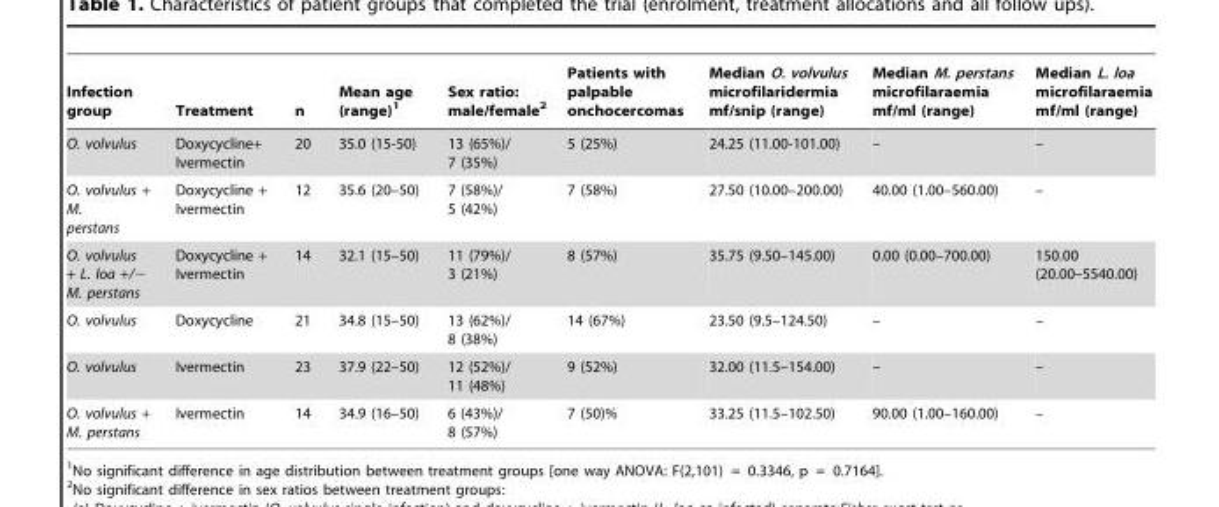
<table><thead><tr><td>Infection group</td><td>Treatment</td><td>n</td><td>Mean age (range)<sup>1</sup></td><td>Sex ratio: male/female<sup>2</sup></td><td>Patients with palpable onchocercomas</td><td>Median O. volvulus microfilaridermia mf/snip (range)</td><td>Median M. perstans microfilaraemia mf/ml (range)</td><td>Median L. loa microfilaraemia mf/ml (range)</td></tr></thead><tbody><tr><td>O. volvulus</td><td>Doxycycline+ Ivermectin</td><td>20</td><td>35.0 (15-50)</td><td>13 (65%)/ 7 (35%)</td><td>5 (25%)</td><td>24.25 (11.00-101.00)</td><td>–</td><td>–</td></tr><tr><td>O. volvulus + M. perstans</td><td>Doxycycline + Ivermectin</td><td>12</td><td>35.6 (20–50)</td><td>7 (58%)/ 5 (42%)</td><td>7 (58%)</td><td>27.50 (10.00–200.00)</td><td>40.00 (1.00–560.00)</td><td>–</td></tr><tr><td>O. volvulus + L. loa +/− M. perstans</td><td>Doxycycline + Ivermectin</td><td>14</td><td>32.1 (15–50)</td><td>11 (79%)/ 3 (21%)</td><td>8 (57%)</td><td>35.75 (9.50–145.00)</td><td>0.00 (0.00–700.00)</td><td>150.00 (20.00–5540.00)</td></tr><tr><td>O. volvulus</td><td>Doxycycline</td><td>21</td><td>34.8 (15–50)</td><td>13 (62%)/ 8 (38%)</td><td>14 (67%)</td><td>23.50 (9.5–124.50)</td><td>–</td><td>–</td></tr><tr><td>O. volvulus</td><td>Ivermectin</td><td>23</td><td>37.9 (22–50)</td><td>12 (52%)/ 11 (48%)</td><td>9 (52%)</td><td>32.00 (11.5–154.00)</td><td>–</td><td>–</td></tr><tr><td>O. volvulus + M. perstans</td><td>Ivermectin</td><td>14</td><td>34.9 (16–50)</td><td>6 (43%)/ 8 (57%)</td><td>7 (50)%</td><td>33.25 (11.5–102.50)</td><td>90.00 (1.00–160.00)</td><td>–</td></tr></tbody></table>